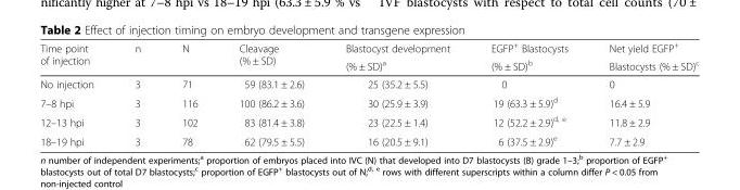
<table><thead><tr><td rowspan="2">Time point of injection</td><td rowspan="2">n</td><td rowspan="2">N</td><td rowspan="2">Cleavage (% ± SD)</td><td rowspan="2">Blastocyst development (% ± SD)<sup>a</sup></td><td rowspan="2">EGFP<sup>+</sup> Blastocysts (% ± SD)<sup>b</sup></td><td rowspan="2">Net yield EGFP<sup>+</sup> Blastocysts (% ± SD)<sup>c</sup></td></tr><tr></tr></thead><tbody><tr><td>No injection</td><td>3</td><td>71</td><td>59 (83.1 ± 2.6)</td><td>25 (35.2 ± 5.5)</td><td>0</td><td>0</td></tr><tr><td>7–8 hpi</td><td>3</td><td>116</td><td>100 (86.2 ± 3.6)</td><td>30 (25.9 ± 3.9)</td><td>19 (63.3 ± 5.9)<sup>d</sup></td><td>16.4 ± 5.9</td></tr><tr><td>12–13 hpi</td><td>3</td><td>102</td><td>83 (81.4 ± 3.8)</td><td>23 (22.5 ± 1.4)</td><td>12 (52.2 ± 2.9)<sup>d, e</sup></td><td>11.8 ± 2.9</td></tr><tr><td>18–19 hpi</td><td>3</td><td>78</td><td>62 (79.5 ± 5.5)</td><td>16 (20.5 ± 9.1)</td><td>6 (37.5 ± 2.9)<sup>e</sup></td><td>7.7 ± 2.9</td></tr></tbody></table>